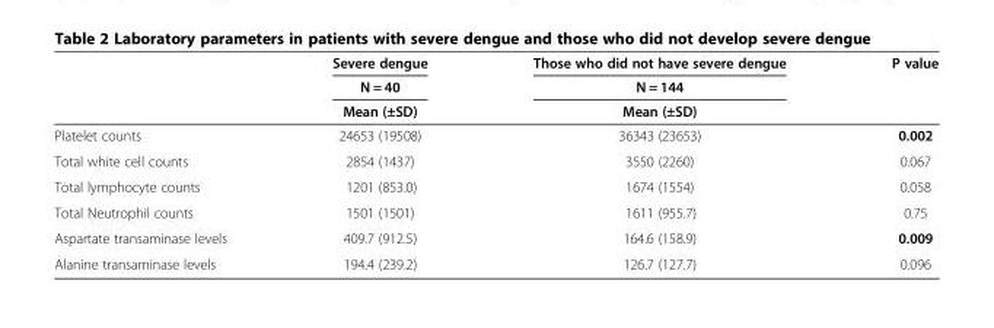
<table><thead><tr><td rowspan="3"></td><td rowspan="3">Severe dengue N = 40 Mean (±SD)</td><td rowspan="3">Those who did not have severe dengue N = 144 Mean (±SD)</td><td rowspan="3">P value</td></tr><tr></tr><tr></tr></thead><tbody><tr><td>Platelet counts</td><td>24653 (19508)</td><td>36343 (23653)</td><td>0.002</td></tr><tr><td>Total white cell counts</td><td>2854 (1437)</td><td>3550 (2260)</td><td>0.067</td></tr><tr><td>Total lymphocyte counts</td><td>1201 (853.0)</td><td>1674 (1554)</td><td>0.058</td></tr><tr><td>Total Neutrophil counts</td><td>1501 (1501)</td><td>1611 (955.7)</td><td>0.75</td></tr><tr><td>Aspartate transaminase levels</td><td>409.7 (912.5)</td><td>164.6 (158.9)</td><td>0.009</td></tr><tr><td>Alanine transaminase levels</td><td>194.4 (239.2)</td><td>126.7 (127.7)</td><td>0.096</td></tr></tbody></table>